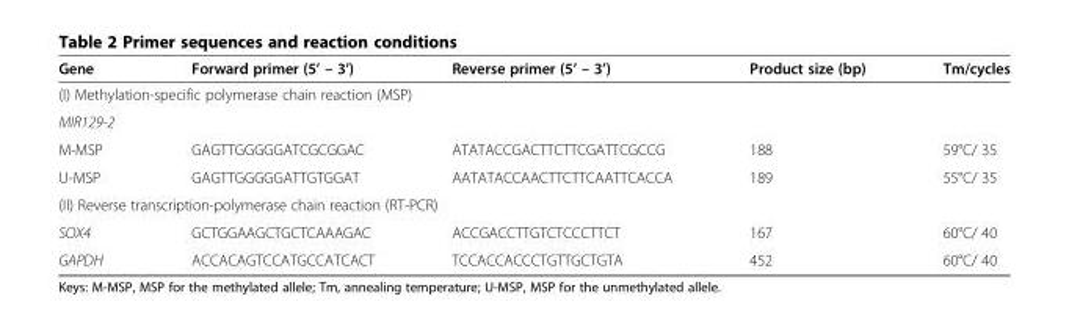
<table><thead><tr><td>Gene</td><td>Forward primer (5’ – 3’)</td><td>Reverse primer (5’ – 3’)</td><td>Product size (bp)</td><td>Tm/cycles</td></tr></thead><tbody><tr><td colspan="5">(I) Methylation-specific polymerase chain reaction (MSP)</td></tr><tr><td colspan="5">MIR129-2</td></tr><tr><td>M-MSP</td><td>GAGTTGGGGGATCGCGGAC</td><td>ATATACCGACTTCTTCGATTCGCCG</td><td>188</td><td>59°C/ 35</td></tr><tr><td>U-MSP</td><td>GAGTTGGGGGATTGTGGAT</td><td>AATATACCAACTTCTTCAATTCACCA</td><td>189</td><td>55°C/ 35</td></tr><tr><td colspan="5">(II) Reverse transcription-polymerase chain reaction (RT-PCR)</td></tr><tr><td>SOX4</td><td>GCTGGAAGCTGCTCAAAGAC</td><td>ACCGACCTTGTCTCCCTTCT</td><td>167</td><td>60°C/ 40</td></tr><tr><td>GAPDH</td><td>ACCACAGTCCATGCCATCACT</td><td>TCCACCACCCTGTTGCTGTA</td><td>452</td><td>60°C/ 40</td></tr></tbody></table>